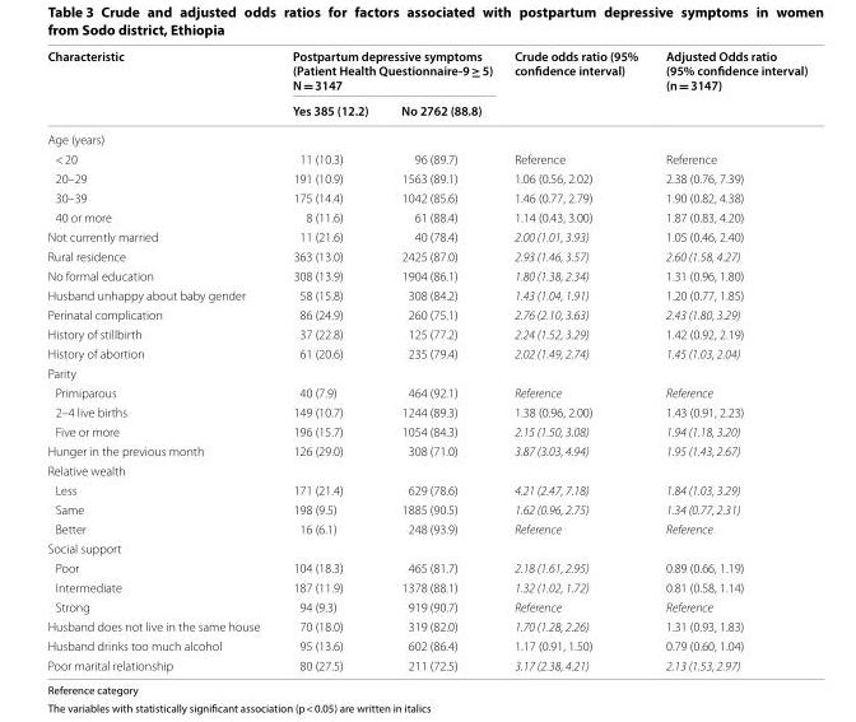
<table><thead><tr><td rowspan="2">Characteristic</td><td colspan="2">Postpartum depressive symptoms (Patient Health Questionnaire‑9 ≥ 5) N = 3147</td><td rowspan="2">Crude odds ratio (95% confidence interval)</td><td rowspan="2">Adjusted Odds ratio (95% confidence interval) (n = 3147)</td></tr><tr><td>Yes 385 (12.2)</td><td>No 2762 (88.8)</td></tr></thead><tbody><tr><td colspan="5">Age (years)</td></tr><tr><td>&lt; 20</td><td>11 (10.3)</td><td>96 (89.7)</td><td>Reference</td><td>Reference</td></tr><tr><td>20–29</td><td>191 (10.9)</td><td>1563 (89.1)</td><td>1.06 (0.56, 2.02)</td><td>2.38 (0.76, 7.39)</td></tr><tr><td>30–39</td><td>175 (14.4)</td><td>1042 (85.6)</td><td>1.46 (0.77, 2.79)</td><td>1.90 (0.82, 4.38)</td></tr><tr><td>40 or more</td><td>8 (11.6)</td><td>61 (88.4)</td><td>1.14 (0.43, 3.00)</td><td>1.87 (0.83, 4.20)</td></tr><tr><td>Not currently married</td><td>11 (21.6)</td><td>40 (78.4)</td><td>2.00 (1.01, 3.93)</td><td>1.05 (0.46, 2.40)</td></tr><tr><td>Rural residence</td><td>363 (13.0)</td><td>2425 (87.0)</td><td>2.93 (1.46, 3.57)</td><td>2.60 (1.58, 4.27)</td></tr><tr><td>No formal education</td><td>308 (13.9)</td><td>1904 (86.1)</td><td>1.80 (1.38, 2.34)</td><td>1.31 (0.96, 1.80)</td></tr><tr><td>Husband unhappy about baby gender</td><td>58 (15.8)</td><td>308 (84.2)</td><td>1.43 (1.04, 1.91)</td><td>1.20 (0.77, 1.85)</td></tr><tr><td>Perinatal complication</td><td>86 (24.9)</td><td>260 (75.1)</td><td>2.76 (2.10, 3.63)</td><td>2.43 (1.80, 3.29)</td></tr><tr><td>History of stillbirth</td><td>37 (22.8)</td><td>125 (77.2)</td><td>2.24 (1.52, 3.29)</td><td>1.42 (0.92, 2.19)</td></tr><tr><td>History of abortion</td><td>61 (20.6)</td><td>235 (79.4)</td><td>2.02 (1.49, 2.74)</td><td>1.45 (1.03, 2.04)</td></tr><tr><td colspan="5">Parity</td></tr><tr><td>Primiparous</td><td>40 (7.9)</td><td>464 (92.1)</td><td>Reference</td><td>Reference</td></tr><tr><td>2–4 live births</td><td>149 (10.7)</td><td>1244 (89.3)</td><td>1.38 (0.96, 2.00)</td><td>1.43 (0.91, 2.23)</td></tr><tr><td>Five or more</td><td>196 (15.7)</td><td>1054 (84.3)</td><td>2.15 (1.50, 3.08)</td><td>1.94 (1.18, 3.20)</td></tr><tr><td>Hunger in the previous month</td><td>126 (29.0)</td><td>308 (71.0)</td><td>3.87 (3.03, 4.94)</td><td>1.95 (1.43, 2.67)</td></tr><tr><td colspan="5">Relative wealth</td></tr><tr><td>Less</td><td>171 (21.4)</td><td>629 (78.6)</td><td>4.21 (2.47, 7.18)</td><td>1.84 (1.03, 3.29)</td></tr><tr><td>Same</td><td>198 (9.5)</td><td>1885 (90.5)</td><td>1.62 (0.96, 2.75)</td><td>1.34 (0.77, 2.31)</td></tr><tr><td>Better</td><td>16 (6.1)</td><td>248 (93.9)</td><td>Reference</td><td>Reference</td></tr><tr><td colspan="5">Social support</td></tr><tr><td>Poor</td><td>104 (18.3)</td><td>465 (81.7)</td><td>2.18 (1.61, 2.95)</td><td>0.89 (0.66, 1.19)</td></tr><tr><td>Intermediate</td><td>187 (11.9)</td><td>1378 (88.1)</td><td>1.32 (1.02, 1.72)</td><td>0.81 (0.58, 1.14)</td></tr><tr><td>Strong</td><td>94 (9.3)</td><td>919 (90.7)</td><td>Reference</td><td>Reference</td></tr><tr><td>Husband does not live in the same house</td><td>70 (18.0)</td><td>319 (82.0)</td><td>1.70 (1.28, 2.26)</td><td>1.31 (0.93, 1.83)</td></tr><tr><td>Husband drinks too much alcohol</td><td>95 (13.6)</td><td>602 (86.4)</td><td>1.17 (0.91, 1.50)</td><td>0.79 (0.60, 1.04)</td></tr><tr><td>Poor marital relationship</td><td>80 (27.5)</td><td>211 (72.5)</td><td>3.17 (2.38, 4.21)</td><td>2.13 (1.53, 2.97)</td></tr></tbody></table>